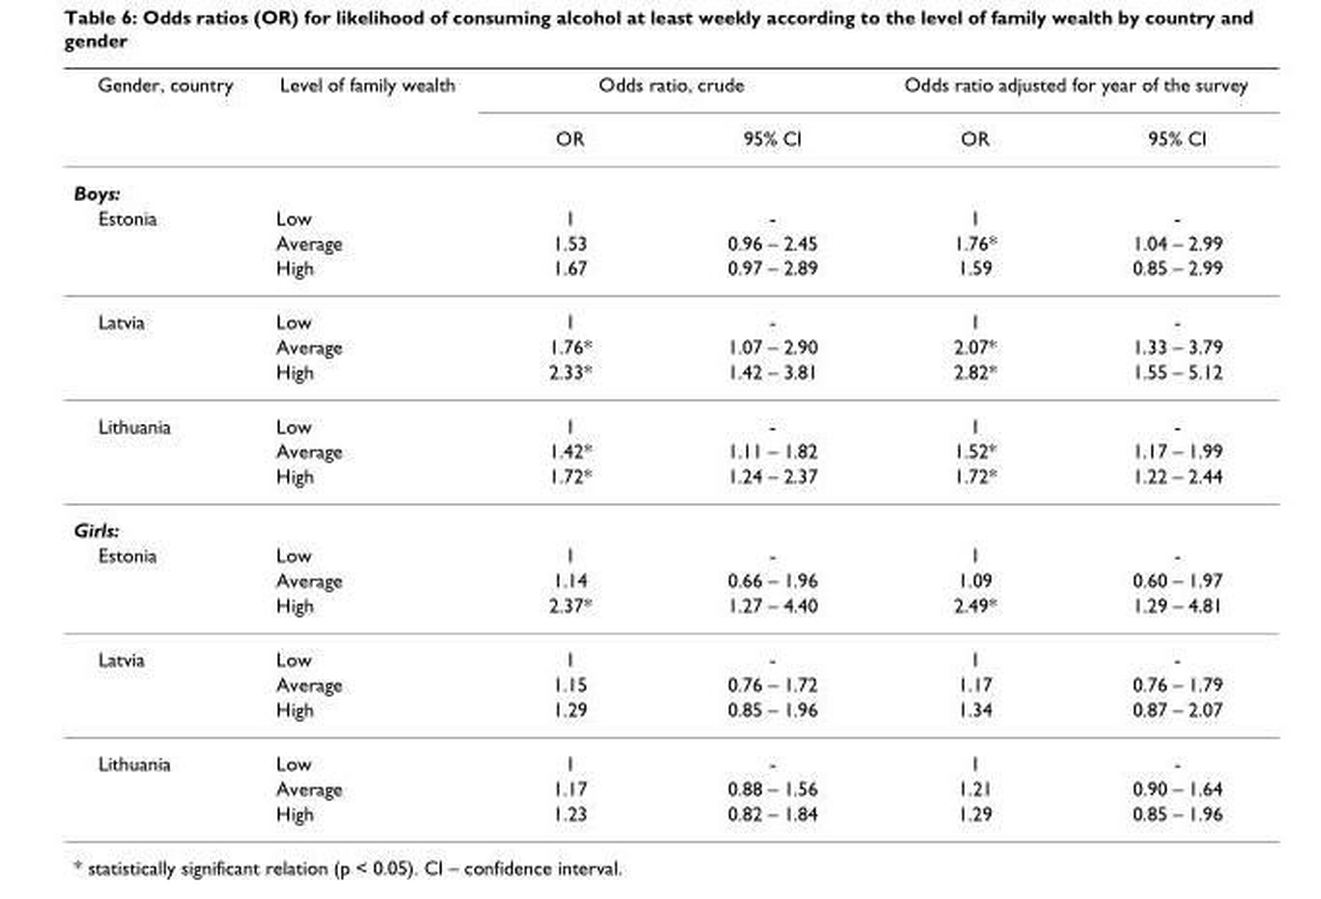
<table><thead><tr><td rowspan="2">Gender, country</td><td rowspan="2">Level of family wealth</td><td colspan="2">Odds ratio, crude</td><td colspan="2">Odds ratio adjusted for year of the survey</td></tr><tr><td>OR</td><td>95% CI</td><td>OR</td><td>95% CI</td></tr></thead><tbody><tr><td colspan="6">Boys:</td></tr><tr><td rowspan="3">Estonia</td><td>Low</td><td>1</td><td>-</td><td>1</td><td>-</td></tr><tr><td>Average</td><td>1.53</td><td>0.96 – 2.45</td><td>1.76*</td><td>1.04 – 2.99</td></tr><tr><td>High</td><td>1.67</td><td>0.97 – 2.89</td><td>1.59</td><td>0.85 – 2.99</td></tr><tr><td rowspan="3">Latvia</td><td>Low</td><td>1</td><td>-</td><td>1</td><td>-</td></tr><tr><td>Average</td><td>1.76*</td><td>1.07 – 2.90</td><td>2.07*</td><td>1.33 – 3.79</td></tr><tr><td>High</td><td>2.33*</td><td>1.42 – 3.81</td><td>2.82*</td><td>1.55 – 5.12</td></tr><tr><td rowspan="3">Lithuania</td><td>Low</td><td>1</td><td>-</td><td>1</td><td>-</td></tr><tr><td>Average</td><td>1.42*</td><td>1.11 – 1.82</td><td>1.52*</td><td>1.17 – 1.99</td></tr><tr><td>High</td><td>1.72*</td><td>1.24 – 2.37</td><td>1.72*</td><td>1.22 – 2.44</td></tr><tr><td colspan="6">Girls:</td></tr><tr><td rowspan="3">Estonia</td><td>Low</td><td>1</td><td>-</td><td>1</td><td>-</td></tr><tr><td>Average</td><td>1.14</td><td>0.66 – 1.96</td><td>1.09</td><td>0.60 – 1.97</td></tr><tr><td>High</td><td>2.37*</td><td>1.27 – 4.40</td><td>2.49*</td><td>1.29 – 4.81</td></tr><tr><td rowspan="3">Latvia</td><td>Low</td><td>1</td><td>-</td><td>1</td><td>-</td></tr><tr><td>Average</td><td>1.15</td><td>0.76 – 1.72</td><td>1.17</td><td>0.76 – 1.79</td></tr><tr><td>High</td><td>1.29</td><td>0.85 – 1.96</td><td>1.34</td><td>0.87 – 2.07</td></tr><tr><td rowspan="3">Lithuania</td><td>Low</td><td>1</td><td>-</td><td>1</td><td>-</td></tr><tr><td>Average</td><td>1.17</td><td>0.88 – 1.56</td><td>1.21</td><td>0.90 – 1.64</td></tr><tr><td>High</td><td>1.23</td><td>0.82 – 1.84</td><td>1.29</td><td>0.85 – 1.96</td></tr></tbody></table>